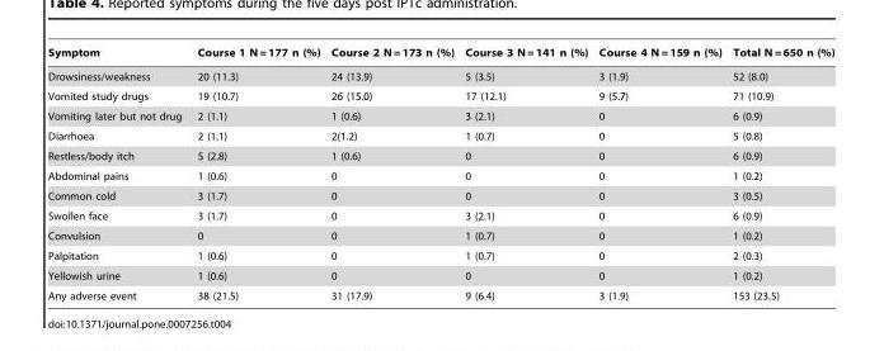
<table><thead><tr><td>Symptom</td><td>Course 1 N = 177 n (%)</td><td>Course 2 N = 173 n (%)</td><td>Course 3 N = 141 n (%)</td><td>Course 4 N = 159 n (%)</td><td>Total N = 650 n (%)</td></tr></thead><tbody><tr><td>Drowsiness/weakness</td><td>20 (11.3)</td><td>24 (13.9)</td><td>5 (3.5)</td><td>3 (1.9)</td><td>52 (8.0)</td></tr><tr><td>Vomited study drugs</td><td>19 (10.7)</td><td>26 (15.0)</td><td>17 (12.1)</td><td>9 (5.7)</td><td>71 (10.9)</td></tr><tr><td>Vomiting later but not drug</td><td>2 (1.1)</td><td>1 (0.6)</td><td>3 (2.1)</td><td>0</td><td>6 (0.9)</td></tr><tr><td>Diarrhoea</td><td>2 (1.1)</td><td>2(1.2)</td><td>1 (0.7)</td><td>0</td><td>5 (0.8)</td></tr><tr><td>Restless/body itch</td><td>5 (2.8)</td><td>1 (0.6)</td><td>0</td><td>0</td><td>6 (0.9)</td></tr><tr><td>Abdominal pains</td><td>1 (0.6)</td><td>0</td><td>0</td><td>0</td><td>1 (0.2)</td></tr><tr><td>Common cold</td><td>3 (1.7)</td><td>0</td><td>0</td><td>0</td><td>3 (0.5)</td></tr><tr><td>Swollen face</td><td>3 (1.7)</td><td>0</td><td>3 (2.1)</td><td>0</td><td>6 (0.9)</td></tr><tr><td>Convulsion</td><td>0</td><td>0</td><td>1 (0.7)</td><td>0</td><td>1 (0.2)</td></tr><tr><td>Palpitation</td><td>1 (0.6)</td><td>0</td><td>1 (0.7)</td><td>0</td><td>2 (0.3)</td></tr><tr><td>Yellowish urine</td><td>1 (0.6)</td><td>0</td><td>0</td><td>0</td><td>1 (0.2)</td></tr><tr><td>Any adverse event</td><td>38 (21.5)</td><td>31 (17.9)</td><td>9 (6.4)</td><td>3 (1.9)</td><td>153 (23.5)</td></tr></tbody></table>